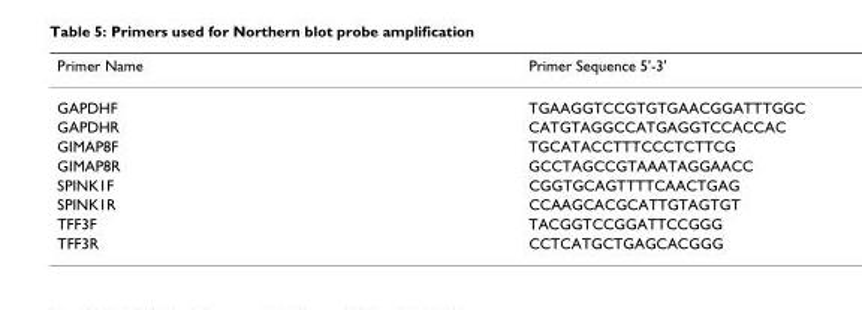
<table><thead><tr><td>Primer Name</td><td>Primer Sequence 5&#x27;-3&#x27;</td></tr></thead><tbody><tr><td>GAPDHF</td><td>TGAAGGTCCGTGTGAACGGATTTGGC</td></tr><tr><td>GAPDHR</td><td>CATGTAGGCCATGAGGTCCACCAC</td></tr><tr><td>GIMAP8F</td><td>TGCATACCTTTCCCTCTTCG</td></tr><tr><td>GIMAP8R</td><td>GCCTAGCCGTAAATAGGAACC</td></tr><tr><td>SPINK1F</td><td>CGGTGCAGTTTTCAACTGAG</td></tr><tr><td>SPINK1R</td><td>CCAAGCACGCATTGTAGTGT</td></tr><tr><td>TFF3F</td><td>TACGGTCCGGATTCCGGG</td></tr><tr><td>TFF3R</td><td>CCTCATGCTGAGCACGGG</td></tr></tbody></table>